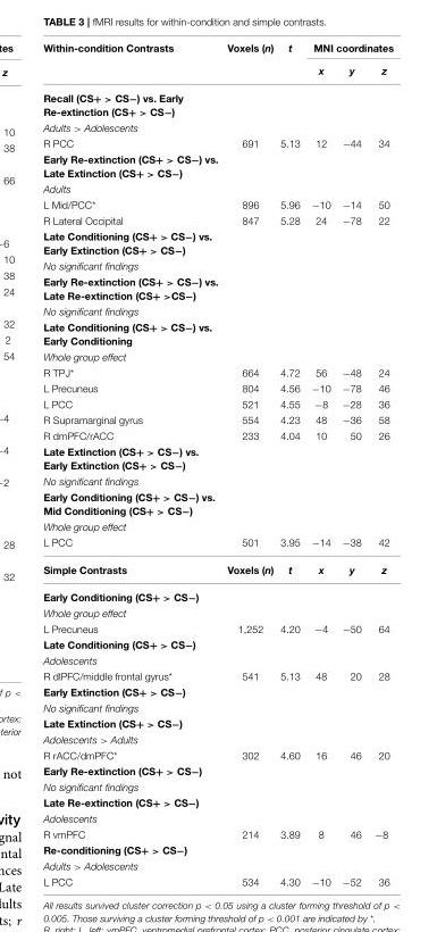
<table><thead><tr><td rowspan="2">Within-condition Contrasts</td><td rowspan="2">Voxels (n)</td><td rowspan="2">t</td><td colspan="3">MNI coordinates</td></tr><tr><td>x</td><td>y</td><td>z</td></tr></thead><tbody><tr><td colspan="6">Recall (CS+ &gt; CS−) vs. Early Re-extinction (CS+ &gt; CS−)</td></tr><tr><td colspan="6">Adults &gt; Adolescents</td></tr><tr><td>R PCC</td><td>691</td><td>5.13</td><td>12</td><td>−44</td><td>34</td></tr><tr><td colspan="6">Early Re-extinction (CS+ &gt; CS−) vs. Late Extinction (CS+ &gt; CS−)</td></tr><tr><td colspan="6">Adults</td></tr><tr><td>L Mid/PCC*</td><td>896</td><td>5.96</td><td>−10</td><td>−14</td><td>50</td></tr><tr><td>R Lateral Occipital</td><td>847</td><td>5.28</td><td>24</td><td>−78</td><td>22</td></tr><tr><td colspan="6">Late Conditioning (CS+ &gt; CS−) vs. Early Extinction (CS+ &gt; CS−)</td></tr><tr><td colspan="6">No significant findings</td></tr><tr><td colspan="6">Early Re-extinction (CS+ &gt; CS−) vs. Late Re-extinction (CS+ &gt;CS−)</td></tr><tr><td colspan="6">No significant findings</td></tr><tr><td colspan="6">Late Conditioning (CS+ &gt; CS−) vs. Early Conditioning</td></tr><tr><td colspan="6">Whole group effect</td></tr><tr><td>R TPJ*</td><td>664</td><td>4.72</td><td>56</td><td>−48</td><td>24</td></tr><tr><td>L Precuneus</td><td>804</td><td>4.56</td><td>−10</td><td>−78</td><td>46</td></tr><tr><td>L PCC</td><td>521</td><td>4.55</td><td>−8</td><td>−28</td><td>36</td></tr><tr><td>R Supramarginal gyrus</td><td>554</td><td>4.23</td><td>48</td><td>−36</td><td>58</td></tr><tr><td>R dmPFC/rACC</td><td>233</td><td>4.04</td><td>10</td><td>50</td><td>26</td></tr><tr><td colspan="6">Late Extinction (CS+ &gt; CS−) vs. Early Extinction (CS+ &gt; CS−)</td></tr><tr><td colspan="6">No significant findings</td></tr><tr><td colspan="6">Early Conditioning (CS+ &gt; CS−) vs. Mid Conditioning (CS+ &gt; CS−)</td></tr><tr><td colspan="6">Whole group effect</td></tr><tr><td>L PCC</td><td>501</td><td>3.95</td><td>−14</td><td>−38</td><td>42</td></tr><tr><td>Simple Contrasts</td><td>Voxels (n)</td><td>t</td><td>x</td><td>y</td><td>z</td></tr><tr><td colspan="6">Early Conditioning (CS+ &gt; CS−)</td></tr><tr><td colspan="6">Whole group effect</td></tr><tr><td>L Precuneus</td><td>1,252</td><td>4.20</td><td>−4</td><td>−50</td><td>64</td></tr><tr><td colspan="6">Late Conditioning (CS+ &gt; CS−)</td></tr><tr><td colspan="6">Adolescents</td></tr><tr><td>R dlPFC/middle frontal gyrus*</td><td>541</td><td>5.13</td><td>48</td><td>20</td><td>28</td></tr><tr><td colspan="6">Early Extinction (CS+ &gt; CS−)</td></tr><tr><td colspan="6">No significant findings</td></tr><tr><td colspan="6">Late Extinction (CS+ &gt; CS−)</td></tr><tr><td colspan="6">Adolescents &gt; Adults</td></tr><tr><td>R rACC/dmPFC*</td><td>302</td><td>4.60</td><td>16</td><td>46</td><td>20</td></tr><tr><td colspan="6">Early Re-extinction (CS+ &gt; CS−)</td></tr><tr><td colspan="6">No significant findings</td></tr><tr><td colspan="6">Late Re-extinction (CS+ &gt; CS−)</td></tr><tr><td colspan="6">Adolescents</td></tr><tr><td>R vmPFC</td><td>214</td><td>3.89</td><td>8</td><td>46</td><td>−8</td></tr><tr><td colspan="6">Re-conditioning (CS+ &gt; CS−)</td></tr><tr><td colspan="6">Adults &gt; Adolescents</td></tr><tr><td>L PCC</td><td>534</td><td>4.30</td><td>−10</td><td>−52</td><td>36</td></tr></tbody></table>